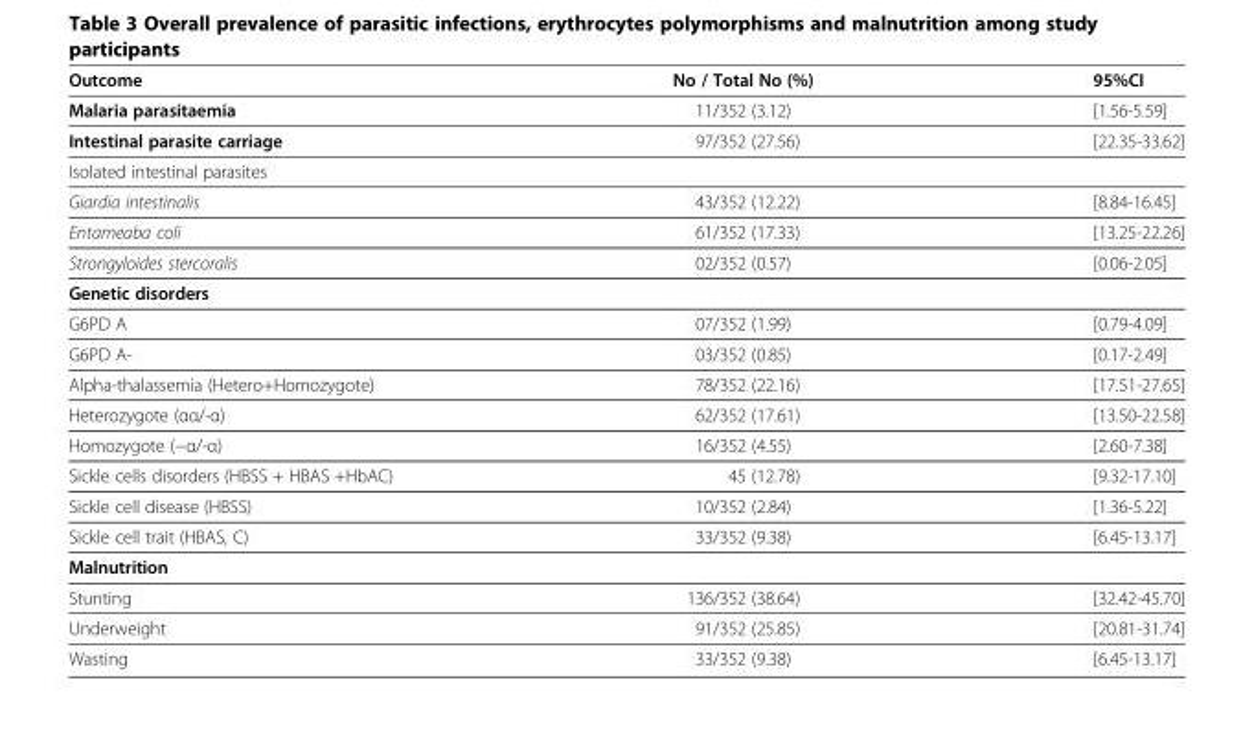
<table><thead><tr><td>Outcome</td><td>No / Total No (%)</td><td>95%CI</td></tr></thead><tbody><tr><td>Malaria parasitaemia</td><td>11/352 (3.12)</td><td>[1.56-5.59]</td></tr><tr><td>Intestinal parasite carriage</td><td>97/352 (27.56)</td><td>[22.35-33.62]</td></tr><tr><td colspan="3">Isolated intestinal parasites</td></tr><tr><td>Giardia intestinalis</td><td>43/352 (12.22)</td><td>[8.84-16.45]</td></tr><tr><td>Entameaba coli</td><td>61/352 (17.33)</td><td>[13.25-22.26]</td></tr><tr><td>Strongyloides stercoralis</td><td>02/352 (0.57)</td><td>[0.06-2.05]</td></tr><tr><td colspan="3">Genetic disorders</td></tr><tr><td>G6PD A</td><td>07/352 (1.99)</td><td>[0.79-4.09]</td></tr><tr><td>G6PD A-</td><td>03/352 (0.85)</td><td>[0.17-2.49]</td></tr><tr><td>Alpha-thalassemia (Hetero+Homozygote)</td><td>78/352 (22.16)</td><td>[17.51-27.65]</td></tr><tr><td>Heterozygote (αα/-α)</td><td>62/352 (17.61)</td><td>[13.50-22.58]</td></tr><tr><td>Homozygote (−α/-α)</td><td>16/352 (4.55)</td><td>[2.60-7.38]</td></tr><tr><td>Sickle cells disorders (HBSS + HBAS +HbAC)</td><td>45 (12.78)</td><td>[9.32-17.10]</td></tr><tr><td>Sickle cell disease (HBSS)</td><td>10/352 (2.84)</td><td>[1.36-5.22]</td></tr><tr><td>Sickle cell trait (HBAS, C)</td><td>33/352 (9.38)</td><td>[6.45-13.17]</td></tr><tr><td colspan="3">Malnutrition</td></tr><tr><td>Stunting</td><td>136/352 (38.64)</td><td>[32.42-45.70]</td></tr><tr><td>Underweight</td><td>91/352 (25.85)</td><td>[20.81-31.74]</td></tr><tr><td>Wasting</td><td>33/352 (9.38)</td><td>[6.45-13.17]</td></tr></tbody></table>